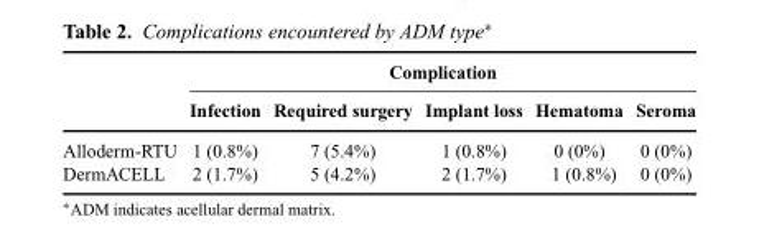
<table><thead><tr><td rowspan="2"></td><td colspan="5">Complication</td></tr><tr><td>Infection</td><td>Required surgery</td><td>Implant loss</td><td>Hematoma</td><td>Seroma</td></tr></thead><tbody><tr><td>Alloderm-RTU</td><td>1 (0.8%)</td><td>7 (5.4%)</td><td>1 (0.8%)</td><td>0 (0%)</td><td>0 (0%)</td></tr><tr><td>DermACELL</td><td>2 (1.7%)</td><td>5 (4.2%)</td><td>2 (1.7%)</td><td>1 (0.8%)</td><td>0 (0%)</td></tr></tbody></table>